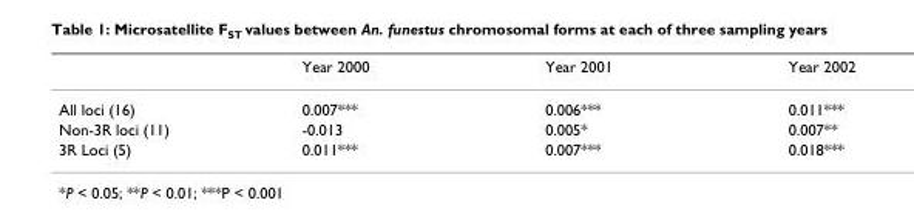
<table><thead><tr><td></td><td>Year 2000</td><td>Year 2001</td><td>Year 2002</td></tr></thead><tbody><tr><td>All loci (16)</td><td>0.007***</td><td>0.006***</td><td>0.011***</td></tr><tr><td>Non-3R loci (11)</td><td>-0.013</td><td>0.005*</td><td>0.007**</td></tr><tr><td>3R Loci (5)</td><td>0.011***</td><td>0.007***</td><td>0.018***</td></tr></tbody></table>